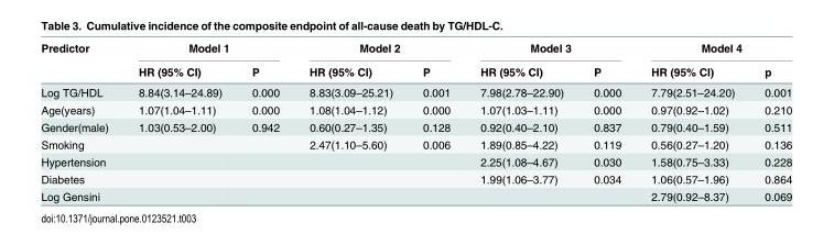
<table><thead><tr><td rowspan="2">Predictor</td><td colspan="2">Model 1</td><td colspan="2">Model 2</td><td colspan="2">Model 3</td><td colspan="2">Model 4</td></tr><tr><td>HR (95% CI)</td><td>P</td><td>HR (95% CI)</td><td>P</td><td>HR (95% CI)</td><td>P</td><td>HR (95% CI)</td><td>p</td></tr></thead><tbody><tr><td>Log TG/HDL</td><td>8.84(3.14–24.89)</td><td>0.000</td><td>8.83(3.09–25.21)</td><td>0.001</td><td>7.98(2.78–22.90)</td><td>0.000</td><td>7.79(2.51–24.20)</td><td>0.001</td></tr><tr><td>Age(years)</td><td>1.07(1.04–1.11)</td><td>0.000</td><td>1.08(1.04–1.12)</td><td>0.000</td><td>1.07(1.03–1.11)</td><td>0.000</td><td>0.97(0.92–1.02)</td><td>0.210</td></tr><tr><td>Gender(male)</td><td>1.03(0.53–2.00)</td><td>0.942</td><td>0.60(0.27–1.35)</td><td>0.128</td><td>0.92(0.40–2.10)</td><td>0.837</td><td>0.79(0.40–1.59)</td><td>0.511</td></tr><tr><td>Smoking</td><td></td><td></td><td>2.47(1.10–5.60)</td><td>0.006</td><td>1.89(0.85–4.22)</td><td>0.119</td><td>0.56(0.27–1.20)</td><td>0.136</td></tr><tr><td>Hypertension</td><td></td><td></td><td></td><td></td><td>2.25(1.08–4.67)</td><td>0.030</td><td>1.58(0.75–3.33)</td><td>0.228</td></tr><tr><td>Diabetes</td><td></td><td></td><td></td><td></td><td>1.99(1.06–3.77)</td><td>0.034</td><td>1.06(0.57–1.96)</td><td>0.864</td></tr><tr><td>Log Gensini</td><td></td><td></td><td></td><td></td><td></td><td></td><td>2.79(0.92–8.37)</td><td>0.069</td></tr></tbody></table>